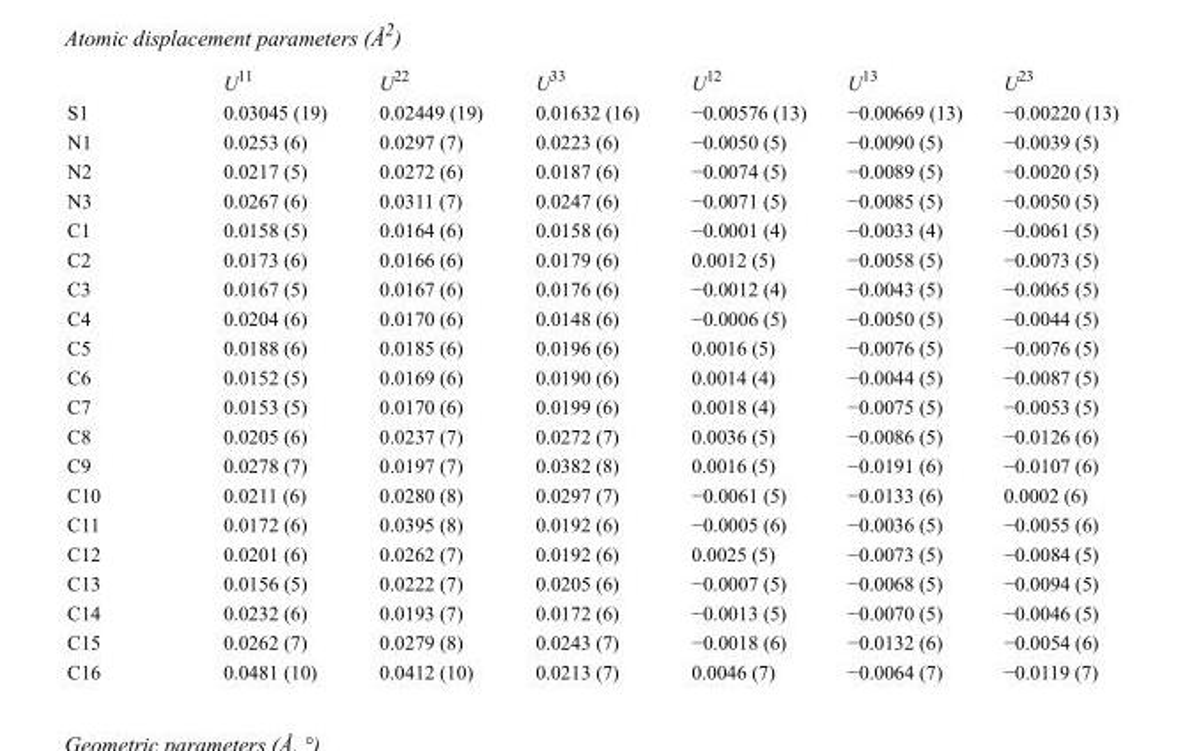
<table><thead><tr><td></td><td>U<sup>11</sup></td><td>U<sup>22</sup></td><td>U<sup>33</sup></td><td>U<sup>12</sup></td><td>U<sup>13</sup></td><td>U<sup>23</sup></td></tr></thead><tbody><tr><td>S1</td><td>0.03045 (19)</td><td>0.02449 (19)</td><td>0.01632 (16)</td><td>−0.00576 (13)</td><td>−0.00669 (13)</td><td>−0.00220 (13)</td></tr><tr><td>N1</td><td>0.0253 (6)</td><td>0.0297 (7)</td><td>0.0223 (6)</td><td>−0.0050 (5)</td><td>−0.0090 (5)</td><td>−0.0039 (5)</td></tr><tr><td>N2</td><td>0.0217 (5)</td><td>0.0272 (6)</td><td>0.0187 (6)</td><td>−0.0074 (5)</td><td>−0.0089 (5)</td><td>−0.0020 (5)</td></tr><tr><td>N3</td><td>0.0267 (6)</td><td>0.0311 (7)</td><td>0.0247 (6)</td><td>−0.0071 (5)</td><td>−0.0085 (5)</td><td>−0.0050 (5)</td></tr><tr><td>C1</td><td>0.0158 (5)</td><td>0.0164 (6)</td><td>0.0158 (6)</td><td>−0.0001 (4)</td><td>−0.0033 (4)</td><td>−0.0061 (5)</td></tr><tr><td>C2</td><td>0.0173 (6)</td><td>0.0166 (6)</td><td>0.0179 (6)</td><td>0.0012 (5)</td><td>−0.0058 (5)</td><td>−0.0073 (5)</td></tr><tr><td>C3</td><td>0.0167 (5)</td><td>0.0167 (6)</td><td>0.0176 (6)</td><td>−0.0012 (4)</td><td>−0.0043 (5)</td><td>−0.0065 (5)</td></tr><tr><td>C4</td><td>0.0204 (6)</td><td>0.0170 (6)</td><td>0.0148 (6)</td><td>−0.0006 (5)</td><td>−0.0050 (5)</td><td>−0.0044 (5)</td></tr><tr><td>C5</td><td>0.0188 (6)</td><td>0.0185 (6)</td><td>0.0196 (6)</td><td>0.0016 (5)</td><td>−0.0076 (5)</td><td>−0.0076 (5)</td></tr><tr><td>C6</td><td>0.0152 (5)</td><td>0.0169 (6)</td><td>0.0190 (6)</td><td>0.0014 (4)</td><td>−0.0044 (5)</td><td>−0.0087 (5)</td></tr><tr><td>C7</td><td>0.0153 (5)</td><td>0.0170 (6)</td><td>0.0199 (6)</td><td>0.0018 (4)</td><td>−0.0075 (5)</td><td>−0.0053 (5)</td></tr><tr><td>C8</td><td>0.0205 (6)</td><td>0.0237 (7)</td><td>0.0272 (7)</td><td>0.0036 (5)</td><td>−0.0086 (5)</td><td>−0.0126 (6)</td></tr><tr><td>C9</td><td>0.0278 (7)</td><td>0.0197 (7)</td><td>0.0382 (8)</td><td>0.0016 (5)</td><td>−0.0191 (6)</td><td>−0.0107 (6)</td></tr><tr><td>C10</td><td>0.0211 (6)</td><td>0.0280 (8)</td><td>0.0297 (7)</td><td>−0.0061 (5)</td><td>−0.0133 (6)</td><td>0.0002 (6)</td></tr><tr><td>C11</td><td>0.0172 (6)</td><td>0.0395 (8)</td><td>0.0192 (6)</td><td>−0.0005 (6)</td><td>−0.0036 (5)</td><td>−0.0055 (6)</td></tr><tr><td>C12</td><td>0.0201 (6)</td><td>0.0262 (7)</td><td>0.0192 (6)</td><td>0.0025 (5)</td><td>−0.0073 (5)</td><td>−0.0084 (5)</td></tr><tr><td>C13</td><td>0.0156 (5)</td><td>0.0222 (7)</td><td>0.0205 (6)</td><td>−0.0007 (5)</td><td>−0.0068 (5)</td><td>−0.0094 (5)</td></tr><tr><td>C14</td><td>0.0232 (6)</td><td>0.0193 (7)</td><td>0.0172 (6)</td><td>−0.0013 (5)</td><td>−0.0070 (5)</td><td>−0.0046 (5)</td></tr><tr><td>C15</td><td>0.0262 (7)</td><td>0.0279 (8)</td><td>0.0243 (7)</td><td>−0.0018 (6)</td><td>−0.0132 (6)</td><td>−0.0054 (6)</td></tr><tr><td>C16</td><td>0.0481 (10)</td><td>0.0412 (10)</td><td>0.0213 (7)</td><td>0.0046 (7)</td><td>−0.0064 (7)</td><td>−0.0119 (7)</td></tr></tbody></table>